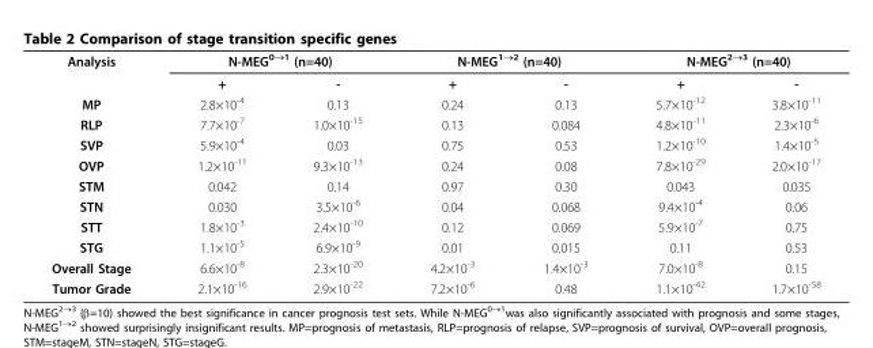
<table><tbody><tr><td rowspan="2">Analysis</td><td colspan="2">N-MEG<sup>0→1</sup> (n=40)</td><td colspan="2">N-MEG<sup>1→2</sup> (n=40)</td><td colspan="2">N-MEG<sup>2→3</sup> (n=40)</td></tr><tr><td>+</td><td>-</td><td>+</td><td>-</td><td>+</td><td>-</td></tr><tr><td>MP</td><td>2.8×10<sup>-4</sup></td><td>0.13</td><td>0.24</td><td>0.13</td><td>5.7×10<sup>-12</sup></td><td>3.8×10<sup>-11</sup></td></tr><tr><td>RLP</td><td>7.7×10<sup>-7</sup></td><td>1.0×10<sup>-15</sup></td><td>0.13</td><td>0.084</td><td>4.8×10<sup>-11</sup></td><td>2.3×10<sup>-6</sup></td></tr><tr><td>SVP</td><td>5.9×10<sup>-4</sup></td><td>0.03</td><td>0.75</td><td>0.53</td><td>1.2×10<sup>-10</sup></td><td>1.4×10<sup>-5</sup></td></tr><tr><td>OVP</td><td>1.2×10<sup>-11</sup></td><td>9.3×10<sup>-13</sup></td><td>0.24</td><td>0.08</td><td>7.8×10<sup>-29</sup></td><td>2.0×10<sup>-17</sup></td></tr><tr><td>STM</td><td>0.042</td><td>0.14</td><td>0.97</td><td>0.30</td><td>0.043</td><td>0.035</td></tr><tr><td>STN</td><td>0.030</td><td>3.5×10<sup>-6</sup></td><td>0.04</td><td>0.068</td><td>9.4×10<sup>-4</sup></td><td>0.06</td></tr><tr><td>STT</td><td>1.8×10<sup>-3</sup></td><td>2.4×10<sup>-10</sup></td><td>0.12</td><td>0.069</td><td>5.9×10<sup>-7</sup></td><td>0.75</td></tr><tr><td>STG</td><td>1.1×10<sup>-5</sup></td><td>6.9×10<sup>-9</sup></td><td>0.01</td><td>0.015</td><td>0.11</td><td>0.53</td></tr><tr><td>Overall Stage</td><td>6.6×10<sup>-8</sup></td><td>2.3×10<sup>-20</sup></td><td>4.2×10<sup>-3</sup></td><td>1.4×10<sup>-3</sup></td><td>7.0×10<sup>-8</sup></td><td>0.15</td></tr><tr><td>Tumor Grade</td><td>2.1×10<sup>-16</sup></td><td>2.9×10<sup>-22</sup></td><td>7.2×10<sup>-6</sup></td><td>0.48</td><td>1.1×10<sup>-42</sup></td><td>1.7×10<sup>-58</sup></td></tr></tbody></table>